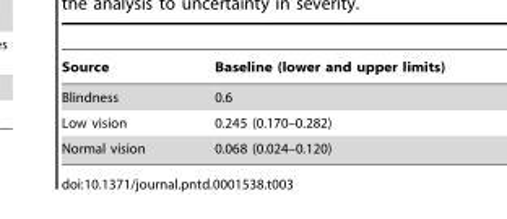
<table><thead><tr><td>Source</td><td>Baseline (lower and upper limits)</td></tr></thead><tbody><tr><td>Blindness</td><td>0.6</td></tr><tr><td>Low vision</td><td>0.245 (0.170–0.282)</td></tr><tr><td>Normal vision</td><td>0.068 (0.024–0.120)</td></tr></tbody></table>